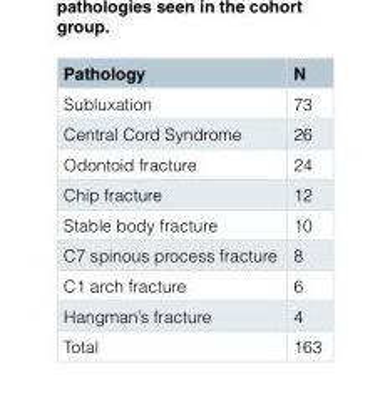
<table><thead><tr><td>Pathology</td><td>N</td></tr></thead><tbody><tr><td>Subluxation</td><td>73</td></tr><tr><td>Central Cord Syndrome</td><td>26</td></tr><tr><td>Odontoid fracture</td><td>24</td></tr><tr><td>Chip fracture</td><td>12</td></tr><tr><td>Stable body fracture</td><td>10</td></tr><tr><td>C7 spinous process fracture</td><td>8</td></tr><tr><td>C1 arch fracture</td><td>6</td></tr><tr><td>Hangman’s fracture</td><td>4</td></tr><tr><td>Total</td><td>163</td></tr></tbody></table>